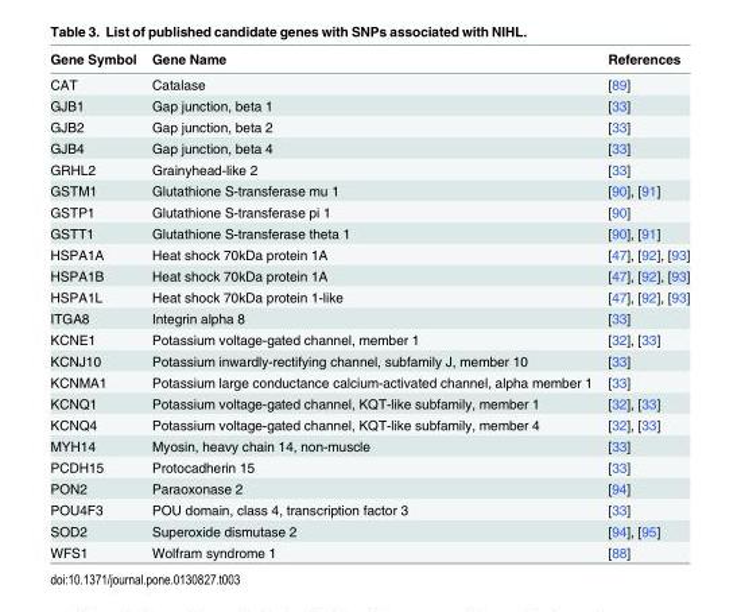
<table><thead><tr><td>Gene Symbol</td><td>Gene Name</td><td>References</td></tr></thead><tbody><tr><td>CAT</td><td>Catalase</td><td>[89]</td></tr><tr><td>GJB1</td><td>Gap junction, beta 1</td><td>[33]</td></tr><tr><td>GJB2</td><td>Gap junction, beta 2</td><td>[33]</td></tr><tr><td>GJB4</td><td>Gap junction, beta 4</td><td>[33]</td></tr><tr><td>GRHL2</td><td>Grainyhead-like 2</td><td>[33]</td></tr><tr><td>GSTM1</td><td>Glutathione S-transferase mu 1</td><td>[90], [91]</td></tr><tr><td>GSTP1</td><td>Glutathione S-transferase pi 1</td><td>[90]</td></tr><tr><td>GSTT1</td><td>Glutathione S-transferase theta 1</td><td>[90], [91]</td></tr><tr><td>HSPA1A</td><td>Heat shock 70kDa protein 1A</td><td>[47], [92], [93]</td></tr><tr><td>HSPA1B</td><td>Heat shock 70kDa protein 1A</td><td>[47], [92], [93]</td></tr><tr><td>HSPA1L</td><td>Heat shock 70kDa protein 1-like</td><td>[47], [92], [93]</td></tr><tr><td>ITGA8</td><td>Integrin alpha 8</td><td>[33]</td></tr><tr><td>KCNE1</td><td>Potassium voltage-gated channel, member 1</td><td>[32], [33]</td></tr><tr><td>KCNJ10</td><td>Potassium inwardly-rectifying channel, subfamily J, member 10</td><td>[33]</td></tr><tr><td>KCNMA1</td><td>Potassium large conductance calcium-activated channel, alpha member 1</td><td>[33]</td></tr><tr><td>KCNQ1</td><td>Potassium voltage-gated channel, KQT-like subfamily, member 1</td><td>[32], [33]</td></tr><tr><td>KCNQ4</td><td>Potassium voltage-gated channel, KQT-like subfamily, member 4</td><td>[32], [33]</td></tr><tr><td>MYH14</td><td>Myosin, heavy chain 14, non-muscle</td><td>[33]</td></tr><tr><td>PCDH15</td><td>Protocadherin 15</td><td>[33]</td></tr><tr><td>PON2</td><td>Paraoxonase 2</td><td>[94]</td></tr><tr><td>POU4F3</td><td>POU domain, class 4, transcription factor 3</td><td>[33]</td></tr><tr><td>SOD2</td><td>Superoxide dismutase 2</td><td>[94], [95]</td></tr><tr><td>WFS1</td><td>Wolfram syndrome 1</td><td>[88]</td></tr></tbody></table>